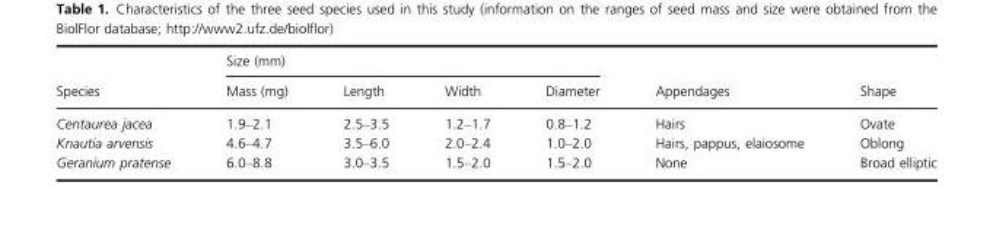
<table><thead><tr><td rowspan="2">Species</td><td colspan="4">Size (mm)</td><td rowspan="2">Appendages</td><td rowspan="2">Shape</td></tr><tr><td>Mass (mg)</td><td>Length</td><td>Width</td><td>Diameter</td></tr></thead><tbody><tr><td>Centaurea jacea</td><td>1.9–2.1</td><td>2.5–3.5</td><td>1.2–1.7</td><td>0.8–1.2</td><td>Hairs</td><td>Ovate</td></tr><tr><td>Knautia arvensis</td><td>4.6–4.7</td><td>3.5–6.0</td><td>2.0–2.4</td><td>1.0–2.0</td><td>Hairs, pappus, elaiosome</td><td>Oblong</td></tr><tr><td>Geranium pratense</td><td>6.0–8.8</td><td>3.0–3.5</td><td>1.5–2.0</td><td>1.5–2.0</td><td>None</td><td>Broad elliptic</td></tr></tbody></table>